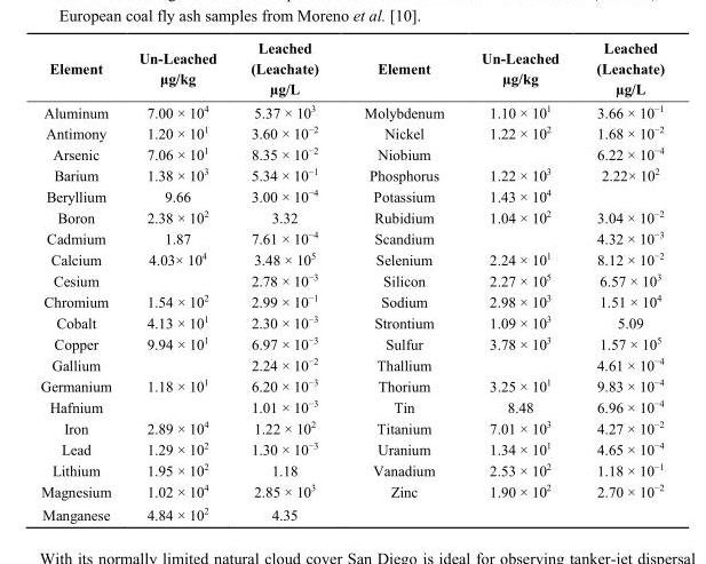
<table><thead><tr><td>Element</td><td>Un-Leached μg/kg</td><td>Leached (Leachate) µg/L</td><td>Element</td><td>Un-Leached µg/kg</td><td>Leached (Leachate) µg/L</td></tr></thead><tbody><tr><td>Aluminum</td><td>7.00 × 104</td><td>5.37 × 103</td><td>Molybdenum</td><td>1.10 × 101</td><td>3.66 × 10−1</td></tr><tr><td>Antimony</td><td>1.20 × 101</td><td>3.60 × 10−2</td><td>Nickel</td><td>1.22 × 102</td><td>1.68 × 10−2</td></tr><tr><td>Arsenic</td><td>7.06 × 101</td><td>8.35 × 10−2</td><td>Niobium</td><td></td><td>6.22 × 10−4</td></tr><tr><td>Barium</td><td>1.38 × 103</td><td>5.34 × 10−1</td><td>Phosphorus</td><td>1.22 × 103</td><td>2.22× 102</td></tr><tr><td>Beryllium</td><td>9.66</td><td>3.00 × 10−4</td><td>Potassium</td><td>1.43 × 104</td><td></td></tr><tr><td>Boron</td><td>2.38 × 102</td><td>3.32</td><td>Rubidium</td><td>1.04 × 102</td><td>3.04 × 10−2</td></tr><tr><td>Cadmium</td><td>1.87</td><td>7.61 × 10−4</td><td>Scandium</td><td></td><td>4.32 × 10−3</td></tr><tr><td>Calcium</td><td>4.03× 104</td><td>3.48 × 105</td><td>Selenium</td><td>2.24 × 101</td><td>8.12 × 10−2</td></tr><tr><td>Cesium</td><td></td><td>2.78 × 10−3</td><td>Silicon</td><td>2.27 × 105</td><td>6.57 × 103</td></tr><tr><td>Chromium</td><td>1.54 × 102</td><td>2.99 × 10−1</td><td>Sodium</td><td>2.98 × 103</td><td>1.51 × 104</td></tr><tr><td>Cobalt</td><td>4.13 × 101</td><td>2.30 × 10−3</td><td>Strontium</td><td>1.09 × 103</td><td>5.09</td></tr><tr><td>Copper</td><td>9.94 × 101</td><td>6.97 × 10−3</td><td>Sulfur</td><td>3.78 × 103</td><td>1.57 × 105</td></tr><tr><td>Gallium</td><td></td><td>2.24 × 10−2</td><td>Thallium</td><td></td><td>4.61 × 10−4</td></tr><tr><td>Germanium</td><td>1.18 × 101</td><td>6.20 × 10−3</td><td>Thorium</td><td>3.25 × 101</td><td>9.83 × 10−4</td></tr><tr><td>Hafnium</td><td></td><td>1.01 × 10−3</td><td>Tin</td><td>8.48</td><td>6.96 × 10−4</td></tr><tr><td>Iron</td><td>2.89 × 104</td><td>1.22 × 102</td><td>Titanium</td><td>7.01 × 103</td><td>4.27 × 10−2</td></tr><tr><td>Lead</td><td>1.29 × 102</td><td>1.30 × 10−3</td><td>Uranium</td><td>1.34 × 101</td><td>4.65 × 10−4</td></tr><tr><td>Lithium</td><td>1.95 × 102</td><td>1.18</td><td>Vanadium</td><td>2.53 × 102</td><td>1.18 × 10−1</td></tr><tr><td>Magnesium</td><td>1.02 × 104</td><td>2.85 × 103</td><td>Zinc</td><td>1.90 × 102</td><td>2.70 × 10−2</td></tr><tr><td>Manganese</td><td>4.84 × 102</td><td>4.35</td><td colspan="3"></td></tr></tbody></table>